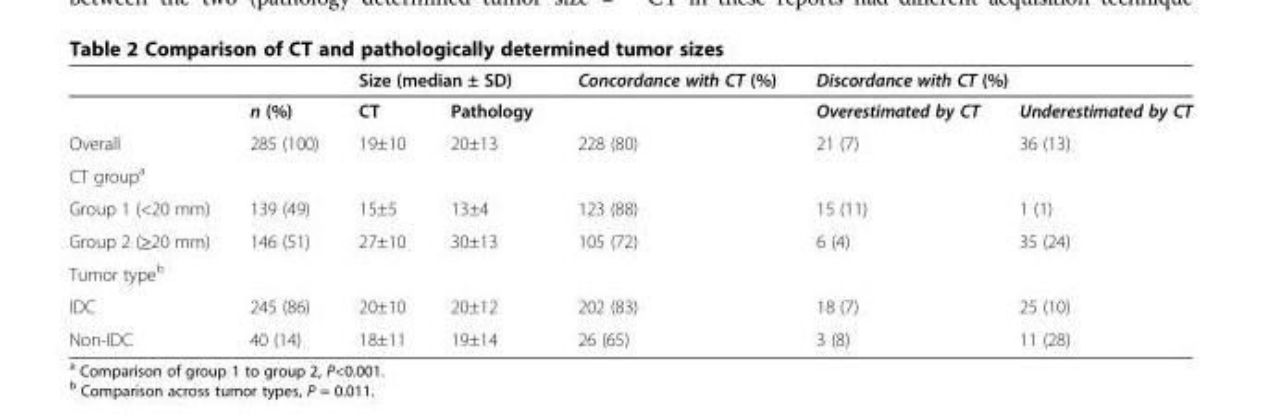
<table><thead><tr><td rowspan="2"></td><td rowspan="2">n (%)</td><td colspan="2">Size (median ± SD)</td><td rowspan="2">Concordance with CT (%)</td><td colspan="2">Discordance with CT (%)</td></tr><tr><td>CT</td><td>Pathology</td><td>Overestimated by CT</td><td>Underestimated by CT</td></tr></thead><tbody><tr><td>Overall</td><td>285 (100)</td><td>19±10</td><td>20±13</td><td>228 (80)</td><td>21 (7)</td><td>36 (13)</td></tr><tr><td colspan="7">CT group<sup>a</sup></td></tr><tr><td>Group 1 (&lt;20 mm)</td><td>139 (49)</td><td>15±5</td><td>13±4</td><td>123 (88)</td><td>15 (11)</td><td>1 (1)</td></tr><tr><td>Group 2 (≥20 mm)</td><td>146 (51)</td><td>27±10</td><td>30±13</td><td>105 (72)</td><td>6 (4)</td><td>35 (24)</td></tr><tr><td colspan="7">Tumor type<sup>b</sup></td></tr><tr><td>IDC</td><td>245 (86)</td><td>20±10</td><td>20±12</td><td>202 (83)</td><td>18 (7)</td><td>25 (10)</td></tr><tr><td>Non-IDC</td><td>40 (14)</td><td>18±11</td><td>19±14</td><td>26 (65)</td><td>3 (8)</td><td>11 (28)</td></tr></tbody></table>